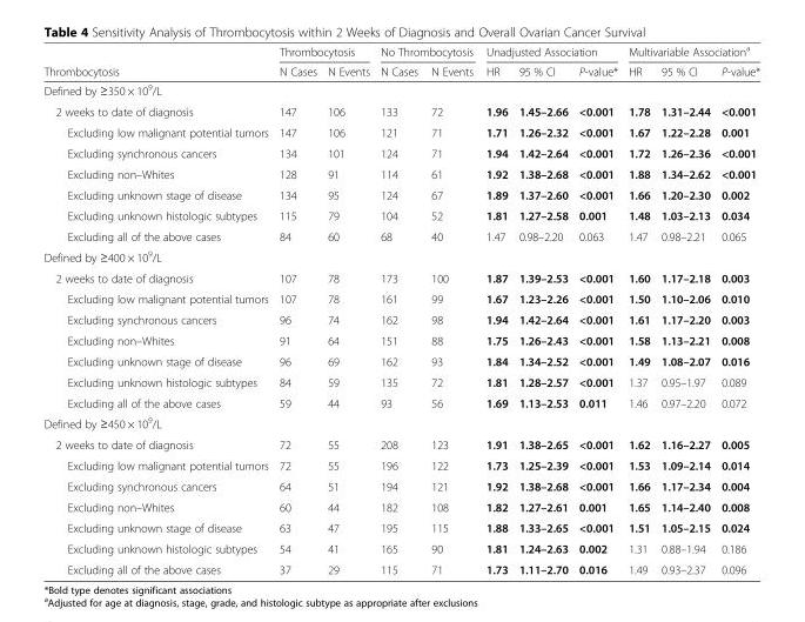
<table><thead><tr><td rowspan="2">Thrombocytosis</td><td colspan="2">Thrombocytosis</td><td colspan="2">No Thrombocytosis</td><td colspan="3">Unadjusted Association</td><td colspan="3">Multivariable Association<sup>a</sup></td></tr><tr><td>N Cases</td><td>N Events</td><td>N Cases</td><td>N Events</td><td>HR</td><td>95 % CI</td><td>P-value*</td><td>HR</td><td>95 % CI</td><td>P-value*</td></tr></thead><tbody><tr><td colspan="11">Defined by ≥350 × 10<sup>9</sup>/L</td></tr><tr><td>2 weeks to date of diagnosis</td><td>147</td><td>106</td><td>133</td><td>72</td><td>1.96</td><td>1.45–2.66</td><td>&lt;0.001</td><td>1.78</td><td>1.31–2.44</td><td>&lt;0.001</td></tr><tr><td>Excluding low malignant potential tumors</td><td>147</td><td>106</td><td>121</td><td>71</td><td>1.71</td><td>1.26–2.32</td><td>&lt;0.001</td><td>1.67</td><td>1.22–2.28</td><td>0.001</td></tr><tr><td>Excluding synchronous cancers</td><td>134</td><td>101</td><td>124</td><td>71</td><td>1.94</td><td>1.42–2.64</td><td>&lt;0.001</td><td>1.72</td><td>1.26–2.36</td><td>&lt;0.001</td></tr><tr><td>Excluding non–Whites</td><td>128</td><td>91</td><td>114</td><td>61</td><td>1.92</td><td>1.38–2.68</td><td>&lt;0.001</td><td>1.88</td><td>1.34–2.62</td><td>&lt;0.001</td></tr><tr><td>Excluding unknown stage of disease</td><td>134</td><td>95</td><td>124</td><td>67</td><td>1.89</td><td>1.37–2.60</td><td>&lt;0.001</td><td>1.66</td><td>1.20–2.30</td><td>0.002</td></tr><tr><td>Excluding unknown histologic subtypes</td><td>115</td><td>79</td><td>104</td><td>52</td><td>1.81</td><td>1.27–2.58</td><td>0.001</td><td>1.48</td><td>1.03–2.13</td><td>0.034</td></tr><tr><td>Excluding all of the above cases</td><td>84</td><td>60</td><td>68</td><td>40</td><td>1.47</td><td>0.98–2.20</td><td>0.063</td><td>1.47</td><td>0.98–2.21</td><td>0.065</td></tr><tr><td colspan="11">Defined by ≥400 × 10<sup>9</sup>/L</td></tr><tr><td>2 weeks to date of diagnosis</td><td>107</td><td>78</td><td>173</td><td>100</td><td>1.87</td><td>1.39–2.53</td><td>&lt;0.001</td><td>1.60</td><td>1.17–2.18</td><td>0.003</td></tr><tr><td>Excluding low malignant potential tumors</td><td>107</td><td>78</td><td>161</td><td>99</td><td>1.67</td><td>1.23–2.26</td><td>&lt;0.001</td><td>1.50</td><td>1.10–2.06</td><td>0.010</td></tr><tr><td>Excluding synchronous cancers</td><td>96</td><td>74</td><td>162</td><td>98</td><td>1.94</td><td>1.42–2.64</td><td>&lt;0.001</td><td>1.61</td><td>1.17–2.20</td><td>0.003</td></tr><tr><td>Excluding non–Whites</td><td>91</td><td>64</td><td>151</td><td>88</td><td>1.75</td><td>1.26–2.43</td><td>&lt;0.001</td><td>1.58</td><td>1.13–2.21</td><td>0.008</td></tr><tr><td>Excluding unknown stage of disease</td><td>96</td><td>69</td><td>162</td><td>93</td><td>1.84</td><td>1.34–2.52</td><td>&lt;0.001</td><td>1.49</td><td>1.08–2.07</td><td>0.016</td></tr><tr><td>Excluding unknown histologic subtypes</td><td>84</td><td>59</td><td>135</td><td>72</td><td>1.81</td><td>1.28–2.57</td><td>&lt;0.001</td><td>1.37</td><td>0.95–1.97</td><td>0.089</td></tr><tr><td>Excluding all of the above cases</td><td>59</td><td>44</td><td>93</td><td>56</td><td>1.69</td><td>1.13–2.53</td><td>0.011</td><td>1.46</td><td>0.97–2.20</td><td>0.072</td></tr><tr><td colspan="11">Defined by ≥450 × 10<sup>9</sup>/L</td></tr><tr><td>2 weeks to date of diagnosis</td><td>72</td><td>55</td><td>208</td><td>123</td><td>1.91</td><td>1.38–2.65</td><td>&lt;0.001</td><td>1.62</td><td>1.16–2.27</td><td>0.005</td></tr><tr><td>Excluding low malignant potential tumors</td><td>72</td><td>55</td><td>196</td><td>122</td><td>1.73</td><td>1.25–2.39</td><td>&lt;0.001</td><td>1.53</td><td>1.09–2.14</td><td>0.014</td></tr><tr><td>Excluding synchronous cancers</td><td>64</td><td>51</td><td>194</td><td>121</td><td>1.92</td><td>1.38–2.68</td><td>&lt;0.001</td><td>1.66</td><td>1.17–2.34</td><td>0.004</td></tr><tr><td>Excluding non–Whites</td><td>60</td><td>44</td><td>182</td><td>108</td><td>1.82</td><td>1.27–2.61</td><td>0.001</td><td>1.65</td><td>1.14–2.40</td><td>0.008</td></tr><tr><td>Excluding unknown stage of disease</td><td>63</td><td>47</td><td>195</td><td>115</td><td>1.88</td><td>1.33–2.65</td><td>&lt;0.001</td><td>1.51</td><td>1.05–2.15</td><td>0.024</td></tr><tr><td>Excluding unknown histologic subtypes</td><td>54</td><td>41</td><td>165</td><td>90</td><td>1.81</td><td>1.24–2.63</td><td>0.002</td><td>1.31</td><td>0.88–1.94</td><td>0.186</td></tr><tr><td>Excluding all of the above cases</td><td>37</td><td>29</td><td>115</td><td>71</td><td>1.73</td><td>1.11–2.70</td><td>0.016</td><td>1.49</td><td>0.93–2.37</td><td>0.096</td></tr></tbody></table>